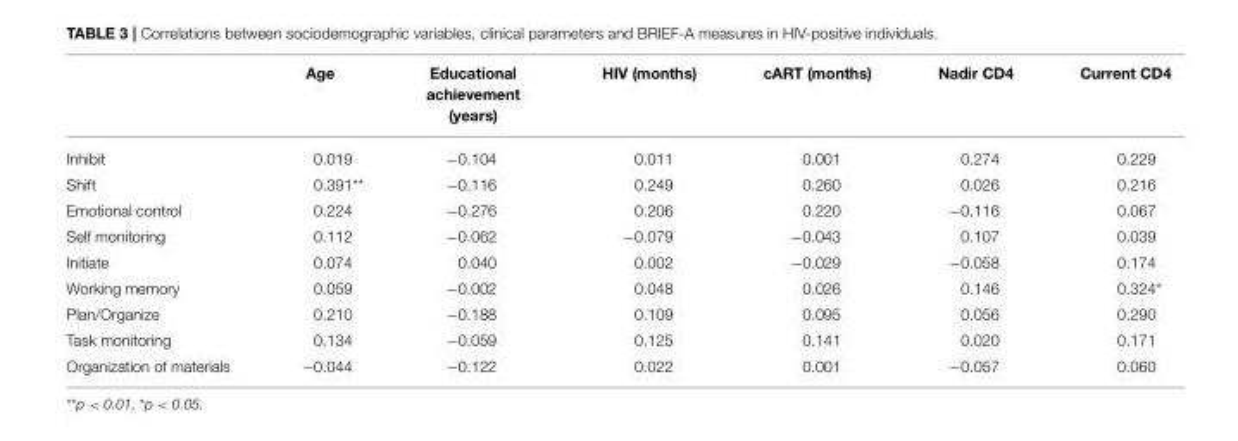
<table><thead><tr><td></td><td>Age</td><td>Educational achievement (years)</td><td>HIV (months)</td><td>cART (months)</td><td>Nadir CD4</td><td>Current CD4</td></tr></thead><tbody><tr><td>Inhibit</td><td>0.019</td><td>−0.104</td><td>0.011</td><td>0.001</td><td>0.274</td><td>0.229</td></tr><tr><td>Shift</td><td>0.391**</td><td>−0.116</td><td>0.249</td><td>0.260</td><td>0.026</td><td>0.216</td></tr><tr><td>Emotional control</td><td>0.224</td><td>−0.276</td><td>0.206</td><td>0.220</td><td>−0.116</td><td>0.067</td></tr><tr><td>Self monitoring</td><td>0.112</td><td>−0.062</td><td>−0.079</td><td>−0.043</td><td>0.107</td><td>0.039</td></tr><tr><td>Initiate</td><td>0.074</td><td>0.040</td><td>0.002</td><td>−0.029</td><td>−0.058</td><td>0.174</td></tr><tr><td>Working memory</td><td>0.059</td><td>−0.002</td><td>0.048</td><td>0.026</td><td>0.146</td><td>0.324*</td></tr><tr><td>Plan/Organize</td><td>0.210</td><td>−0.188</td><td>0.109</td><td>0.095</td><td>0.056</td><td>0.290</td></tr><tr><td>Task monitoring</td><td>0.134</td><td>−0.059</td><td>0.125</td><td>0.141</td><td>0.020</td><td>0.171</td></tr><tr><td>Organization of materials</td><td>−0.044</td><td>−0.122</td><td>0.022</td><td>0.001</td><td>−0.057</td><td>0.060</td></tr></tbody></table>